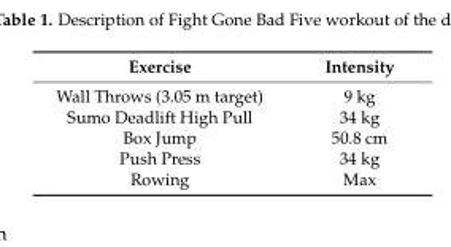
<table><thead><tr><td>Exercise</td><td>Intensity</td></tr></thead><tbody><tr><td>Wall Throws (3.05 m target)</td><td>9 kg</td></tr><tr><td>Sumo Deadlift High Pull</td><td>34 kg</td></tr><tr><td>Box Jump</td><td>50.8 cm</td></tr><tr><td>Push Press</td><td>34 kg</td></tr><tr><td>Rowing</td><td>Max</td></tr></tbody></table>